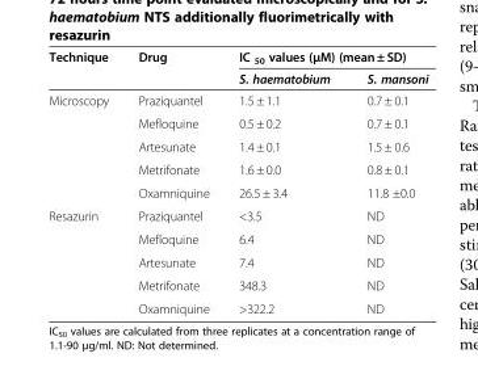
<table><thead><tr><td rowspan="2">Technique</td><td rowspan="2">Drug</td><td colspan="2">IC <sub>50</sub> values (μM) (mean ± SD)</td></tr><tr><td>S. haematobium</td><td>S. mansoni</td></tr></thead><tbody><tr><td rowspan="5">Microscopy</td><td>Praziquantel</td><td>1.5 ± 1.1</td><td>0.7 ± 0.1</td></tr><tr><td>Mefloquine</td><td>0.5 ± 0.2</td><td>0.7 ± 0.1</td></tr><tr><td>Artesunate</td><td>1.4 ± 0.1</td><td>1.5 ± 0.6</td></tr><tr><td>Metrifonate</td><td>1.6 ± 0.0</td><td>0.8 ± 0.1</td></tr><tr><td>Oxamniquine</td><td>26.5 ± 3.4</td><td>11.8 ±0.0</td></tr><tr><td rowspan="5">Resazurin</td><td>Praziquantel</td><td>&lt;3.5</td><td>ND</td></tr><tr><td>Mefloquine</td><td>6.4</td><td>ND</td></tr><tr><td>Artesunate</td><td>7.4</td><td>ND</td></tr><tr><td>Metrifonate</td><td>348.3</td><td>ND</td></tr><tr><td>Oxamniquine</td><td>&gt;322.2</td><td>ND</td></tr></tbody></table>